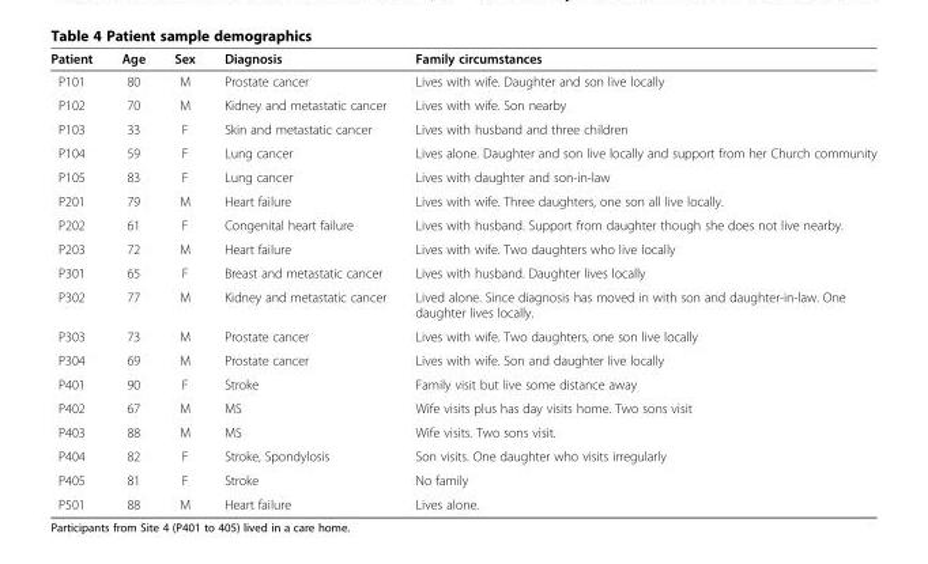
<table><thead><tr><td>Patient</td><td>Age</td><td>Sex</td><td>Diagnosis</td><td>Family circumstances</td></tr></thead><tbody><tr><td>P101</td><td>80</td><td>M</td><td>Prostate cancer</td><td>Lives with wife. Daughter and son live locally</td></tr><tr><td>P102</td><td>70</td><td>M</td><td>Kidney and metastatic cancer</td><td>Lives with wife. Son nearby</td></tr><tr><td>P103</td><td>33</td><td>F</td><td>Skin and metastatic cancer</td><td>Lives with husband and three children</td></tr><tr><td>P104</td><td>59</td><td>F</td><td>Lung cancer</td><td>Lives alone. Daughter and son live locally and support from her Church community</td></tr><tr><td>P105</td><td>83</td><td>F</td><td>Lung cancer</td><td>Lives with daughter and son-in-law</td></tr><tr><td>P201</td><td>79</td><td>M</td><td>Heart failure</td><td>Lives with wife. Three daughters, one son all live locally.</td></tr><tr><td>P202</td><td>61</td><td>F</td><td>Congenital heart failure</td><td>Lives with husband. Support from daughter though she does not live nearby.</td></tr><tr><td>P203</td><td>72</td><td>M</td><td>Heart failure</td><td>Lives with wife. Two daughters who live locally</td></tr><tr><td>P301</td><td>65</td><td>F</td><td>Breast and metastatic cancer</td><td>Lives with husband. Daughter lives locally</td></tr><tr><td>P302</td><td>77</td><td>M</td><td>Kidney and metastatic cancer</td><td>Lived alone. Since diagnosis has moved in with son and daughter-in-law. One daughter lives locally.</td></tr><tr><td>P303</td><td>73</td><td>M</td><td>Prostate cancer</td><td>Lives with wife. Two daughters, one son live locally</td></tr><tr><td>P304</td><td>69</td><td>M</td><td>Prostate cancer</td><td>Lives with wife. Son and daughter live locally</td></tr><tr><td>P401</td><td>90</td><td>F</td><td>Stroke</td><td>Family visit but live some distance away</td></tr><tr><td>P402</td><td>67</td><td>M</td><td>MS</td><td>Wife visits plus has day visits home. Two sons visit</td></tr><tr><td>P403</td><td>88</td><td>M</td><td>MS</td><td>Wife visits. Two sons visit.</td></tr><tr><td>P404</td><td>82</td><td>F</td><td>Stroke, Spondylosis</td><td>Son visits. One daughter who visits irregularly</td></tr><tr><td>P405</td><td>81</td><td>F</td><td>Stroke</td><td>No family</td></tr><tr><td>P501</td><td>88</td><td>M</td><td>Heart failure</td><td>Lives alone.</td></tr></tbody></table>